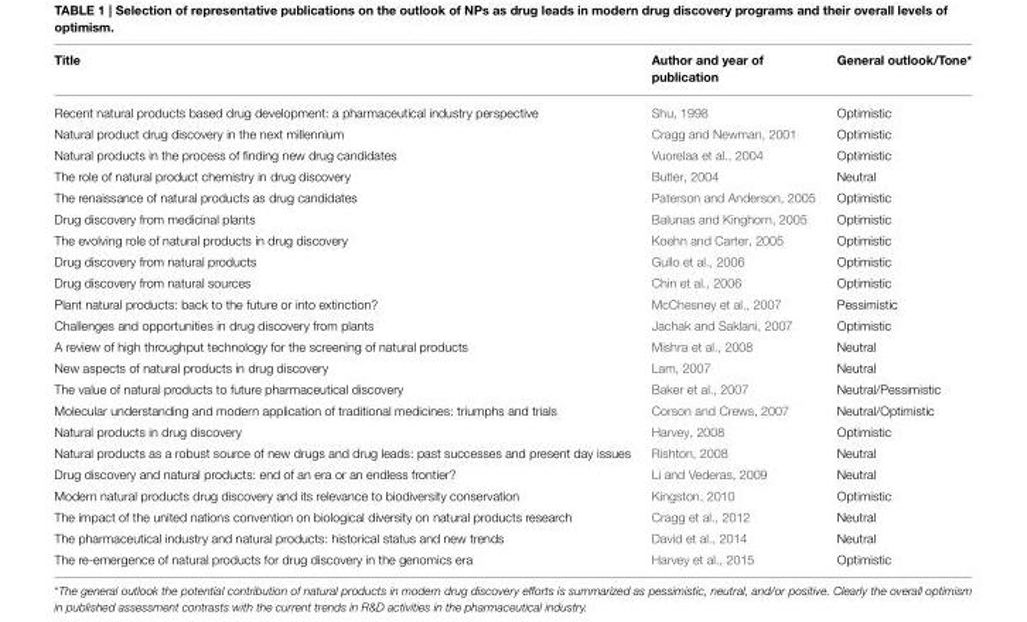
<table><thead><tr><td>Title</td><td>Author and year of publication</td><td>General outlook/Tone*</td></tr></thead><tbody><tr><td>Recent natural products based drug development: a pharmaceutical industry perspective</td><td>Shu, 1998</td><td>Optimistic</td></tr><tr><td>Natural product drug discovery in the next millennium</td><td>Cragg and Newman, 2001</td><td>Optimistic</td></tr><tr><td>Natural products in the process of finding new drug candidates</td><td>Vuorelaa et al., 2004</td><td>Optimistic</td></tr><tr><td>The role of natural product chemistry in drug discovery</td><td>Butler, 2004</td><td>Neutral</td></tr><tr><td>The renaissance of natural products as drug candidates</td><td>Paterson and Anderson, 2005</td><td>Optimistic</td></tr><tr><td>Drug discovery from medicinal plants</td><td>Balunas and Kinghorn, 2005</td><td>Optimistic</td></tr><tr><td>The evolving role of natural products in drug discovery</td><td>Koehn and Carter, 2005</td><td>Optimistic</td></tr><tr><td>Drug discovery from natural products</td><td>Gullo et al., 2006</td><td>Optimistic</td></tr><tr><td>Drug discovery from natural sources</td><td>Chin et al., 2006</td><td>Optimistic</td></tr><tr><td>Plant natural products: back to the future or into extinction?</td><td>McChesney et al., 2007</td><td>Pessimistic</td></tr><tr><td>Challenges and opportunities in drug discovery from plants</td><td>Jachak and Saklani, 2007</td><td>Optimistic</td></tr><tr><td>A review of high throughput technology for the screening of natural products</td><td>Mishra et al., 2008</td><td>Neutral</td></tr><tr><td>New aspects of natural products in drug discovery</td><td>Lam, 2007</td><td>Neutral</td></tr><tr><td>The value of natural products to future pharmaceutical discovery</td><td>Baker et al., 2007</td><td>Neutral/Pessimistic</td></tr><tr><td>Molecular understanding and modern application of traditional medicines: triumphs and trials</td><td>Corson and Crews, 2007</td><td>Neutral/Optimistic</td></tr><tr><td>Natural products in drug discovery</td><td>Harvey, 2008</td><td>Optimistic</td></tr><tr><td>Natural products as a robust source of new drugs and drug leads: past successes and present day issues</td><td>Rishton, 2008</td><td>Neutral</td></tr><tr><td>Drug discovery and natural products: end of an era or an endless frontier?</td><td>Li and Vederas, 2009</td><td>Neutral</td></tr><tr><td>Modern natural products drug discovery and its relevance to biodiversity conservation</td><td>Kingston, 2010</td><td>Optimistic</td></tr><tr><td>The impact of the united nations convention on biological diversity on natural products research</td><td>Cragg et al., 2012</td><td>Neutral</td></tr><tr><td>The pharmaceutical industry and natural products: historical status and new trends</td><td>David et al., 2014</td><td>Neutral</td></tr><tr><td>The re-emergence of natural products for drug discovery in the genomics era</td><td>Harvey et al., 2015</td><td>Optimistic</td></tr></tbody></table>